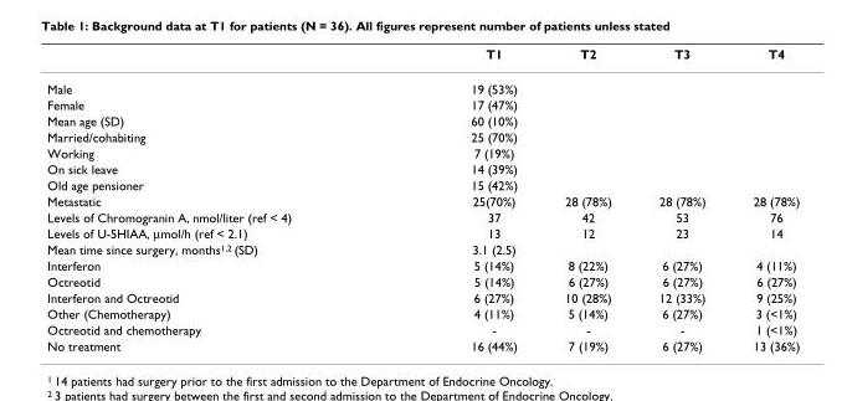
<table><thead><tr><td></td><td>T1</td><td>T2</td><td>T3</td><td>T4</td></tr></thead><tbody><tr><td>Male</td><td>19 (53%)</td><td></td><td></td><td></td></tr><tr><td>Female</td><td>17 (47%)</td><td></td><td></td><td></td></tr><tr><td>Mean age (SD)</td><td>60 (10%)</td><td></td><td></td><td></td></tr><tr><td>Married/cohabiting</td><td>25 (70%)</td><td></td><td></td><td></td></tr><tr><td>Working</td><td>7 (19%)</td><td></td><td></td><td></td></tr><tr><td>On sick leave</td><td>14 (39%)</td><td></td><td></td><td></td></tr><tr><td>Old age pensioner</td><td>15 (42%)</td><td></td><td></td><td></td></tr><tr><td>Metastatic</td><td>25(70%)</td><td>28 (78%)</td><td>28 (78%)</td><td>28 (78%)</td></tr><tr><td>Levels of Chromogranin A, nmol/liter (ref &lt; 4)</td><td>37</td><td>42</td><td>53</td><td>76</td></tr><tr><td>Levels of U-5HIAA, μmol/h (ref &lt; 2.1)</td><td>13</td><td>12</td><td>23</td><td>14</td></tr><tr><td>Mean time since surgery, months<sup>1,2</sup> (SD)</td><td>3.1 (2.5)</td><td></td><td></td><td></td></tr><tr><td>Interferon</td><td>5 (14%)</td><td>8 (22%)</td><td>6 (27%)</td><td>4 (11%)</td></tr><tr><td>Octreotid</td><td>5 (14%)</td><td>6 (27%)</td><td>6 (27%)</td><td>6 (27%)</td></tr><tr><td>Interferon and Octreotid</td><td>6 (27%)</td><td>10 (28%)</td><td>12 (33%)</td><td>9 (25%)</td></tr><tr><td>Other (Chemotherapy)</td><td>4 (11%)</td><td>5 (14%)</td><td>6 (27%)</td><td>3 (&lt;1%)</td></tr><tr><td>Octreotid and chemotherapy</td><td>-</td><td>-</td><td>-</td><td>1 (&lt;1%)</td></tr><tr><td>No treatment</td><td>16 (44%)</td><td>7 (19%)</td><td>6 (27%)</td><td>13 (36%)</td></tr></tbody></table>